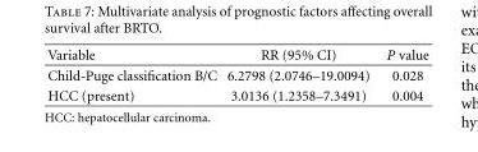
<table><thead><tr><td>Variable</td><td>RR (95% CI)</td><td>P value</td></tr></thead><tbody><tr><td>Child-Puge classification B/C</td><td>6.2798 (2.0746–19.0094)</td><td>0.028</td></tr><tr><td>HCC (present)</td><td>3.0136 (1.2358–7.3491)</td><td>0.004</td></tr></tbody></table>